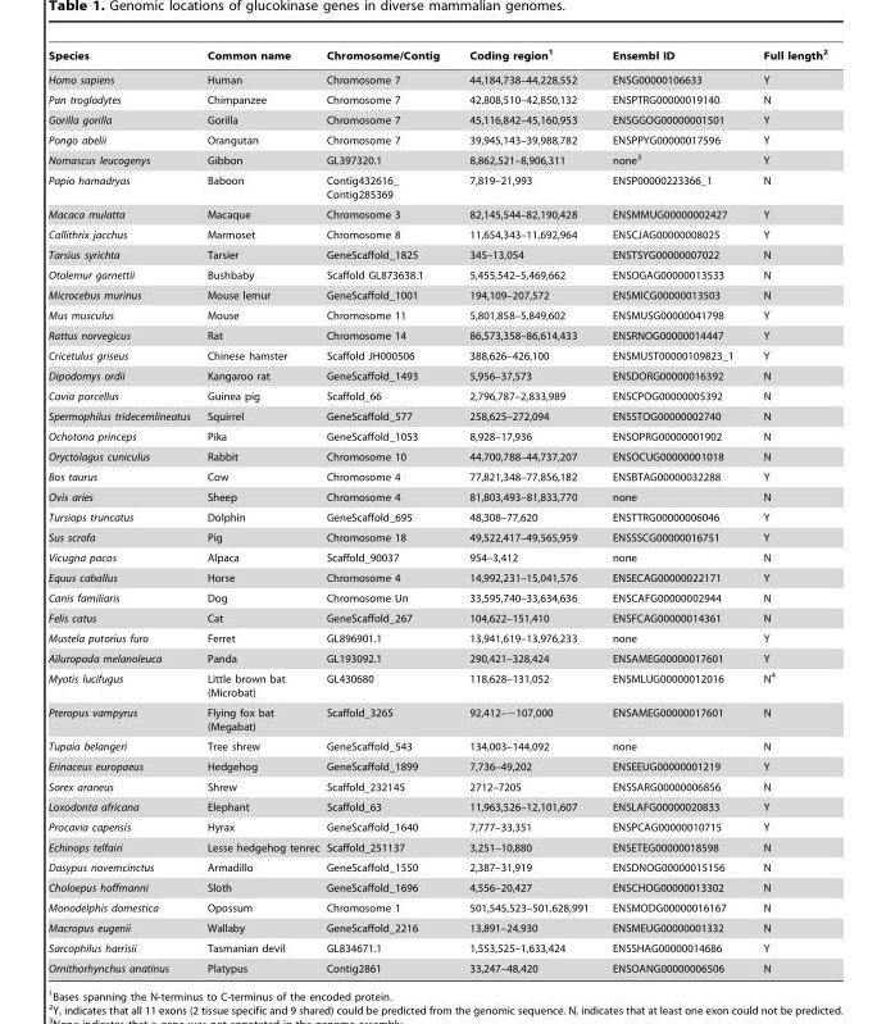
<table><thead><tr><td>Species</td><td>Common name</td><td>Chromosome/Contig</td><td>Coding region<sup>1</sup></td><td>Ensembl ID</td><td>Full length<sup>2</sup></td></tr></thead><tbody><tr><td>Homo sapiens</td><td>Human</td><td>Chromosome 7</td><td>44,184,738–44,228,552</td><td>ENSG00000106633</td><td>Y</td></tr><tr><td>Pan troglodytes</td><td>Chimpanzee</td><td>Chromosome 7</td><td>42,808,510–42,850,132</td><td>ENSPTRG00000019140</td><td>N</td></tr><tr><td>Gorilla gorilla</td><td>Gorilla</td><td>Chromosome 7</td><td>45,116,842–45,160,953</td><td>ENSGGOG00000001501</td><td>Y</td></tr><tr><td>Pongo abelii</td><td>Orangutan</td><td>Chromosome 7</td><td>39,945,143–39,988,782</td><td>ENSPPYG00000017596</td><td>Y</td></tr><tr><td>Nomascus leucogenys</td><td>Gibbon</td><td>GL397320.1</td><td>8,862,521–8,906,311</td><td>none<sup>3</sup></td><td>Y</td></tr><tr><td>Papio hamadryas</td><td>Baboon</td><td>Contig432616_ Contig285369</td><td>7,819–21,993</td><td>ENSP00000223366_1</td><td>N</td></tr><tr><td>Macaca mulatta</td><td>Macaque</td><td>Chromosome 3</td><td>82,145,544–82,190,428</td><td>ENSMMUG00000002427</td><td>Y</td></tr><tr><td>Callithrix jacchus</td><td>Marmoset</td><td>Chromosome 8</td><td>11,654,343–11,692,964</td><td>ENSCJAG00000008025</td><td>Y</td></tr><tr><td>Tarsius syrichta</td><td>Tarsier</td><td>GeneScaffold_1825</td><td>345–13,054</td><td>ENSTSYG00000007022</td><td>N</td></tr><tr><td>Otolemur garnettii</td><td>Bushbaby</td><td>Scaffold GL873638.1</td><td>5,455,542–5,469,662</td><td>ENSOGAG00000013533</td><td>N</td></tr><tr><td>Microcebus murinus</td><td>Mouse lemur</td><td>GeneScaffold_1001</td><td>194,109–207,572</td><td>ENSMICG00000013503</td><td>N</td></tr><tr><td>Mus musculus</td><td>Mouse</td><td>Chromosome 11</td><td>5,801,858–5,849,602</td><td>ENSMUSG00000041798</td><td>Y</td></tr><tr><td>Rattus norvegicus</td><td>Rat</td><td>Chromosome 14</td><td>86,573,358–86,614,433</td><td>ENSRNOG00000014447</td><td>Y</td></tr><tr><td>Cricetulus griseus</td><td>Chinese hamster</td><td>Scaffold JH000506</td><td>388,626–426,100</td><td>ENSMUST00000109823_1</td><td>Y</td></tr><tr><td>Dipodomys ordii</td><td>Kangaroo rat</td><td>GeneScaffold_1493</td><td>5,956–37,573</td><td>ENSDORG00000016392</td><td>N</td></tr><tr><td>Cavia porcellus</td><td>Guinea pig</td><td>Scaffold_66</td><td>2,796,787–2,833,989</td><td>ENSCPOG00000005392</td><td>N</td></tr><tr><td>Spermophilus tridecemlineatus</td><td>Squirrel</td><td>GeneScaffold_577</td><td>258,625–272,094</td><td>ENSSTOG00000002740</td><td>N</td></tr><tr><td>Ochotona princeps</td><td>Pika</td><td>GeneScaffold_1053</td><td>8,928–17,936</td><td>ENSOPRG00000001902</td><td>N</td></tr><tr><td>Oryctolagus cuniculus</td><td>Rabbit</td><td>Chromosome 10</td><td>44,700,788–44,737,207</td><td>ENSOCUG00000001018</td><td>N</td></tr><tr><td>Bos taurus</td><td>Cow</td><td>Chromosome 4</td><td>77,821,348–77,856,182</td><td>ENSBTAG00000032288</td><td>Y</td></tr><tr><td>Ovis aries</td><td>Sheep</td><td>Chromosome 4</td><td>81,803,493–81,833,770</td><td>none</td><td>N</td></tr><tr><td>Tursiops truncatus</td><td>Dolphin</td><td>GeneScaffold_695</td><td>48,308–77,620</td><td>ENSTTRG00000006046</td><td>Y</td></tr><tr><td>Sus scrofa</td><td>Pig</td><td>Chromosome 18</td><td>49,522,417–49,565,959</td><td>ENSSSCG00000016751</td><td>Y</td></tr><tr><td>Vicugna pacos</td><td>Alpaca</td><td>Scaffold_90037</td><td>954–3,412</td><td>none</td><td>N</td></tr><tr><td>Equus caballus</td><td>Horse</td><td>Chromosome 4</td><td>14,992,231–15,041,576</td><td>ENSECAG00000022171</td><td>Y</td></tr><tr><td>Canis familiaris</td><td>Dog</td><td>Chromosome Un</td><td>33,595,740–33,634,636</td><td>ENSCAFG00000002944</td><td>N</td></tr><tr><td>Felis catus</td><td>Cat</td><td>GeneScaffold_267</td><td>104,622–151,410</td><td>ENSFCAG00000014361</td><td>N</td></tr><tr><td>Mustela putorius furo</td><td>Ferret</td><td>GL896901.1</td><td>13,941,619–13,976,233</td><td>none</td><td>Y</td></tr><tr><td>Ailuropoda melanoleuca</td><td>Panda</td><td>GL193092.1</td><td>290,421–328,424</td><td>ENSAMEG00000017601</td><td>Y</td></tr><tr><td>Myotis lucifugus</td><td>Little brown bat (Microbat)</td><td>GL430680</td><td>118,628–131,052</td><td>ENSMLUG00000012016</td><td>N<sup>4</sup></td></tr><tr><td>Pteropus vampyrus</td><td>Flying fox bat (Megabat)</td><td>Scaffold_3265</td><td>92,412–∼107,000</td><td>ENSAMEG00000017601</td><td>N</td></tr><tr><td>Tupaia belangeri</td><td>Tree shrew</td><td>GeneScaffold_543</td><td>134,003–144,092</td><td>none</td><td>N</td></tr><tr><td>Erinaceus europaeus</td><td>Hedgehog</td><td>GeneScaffold_1899</td><td>7,736–49,202</td><td>ENSEEUG00000001219</td><td>Y</td></tr><tr><td>Sorex araneus</td><td>Shrew</td><td>Scaffold_232145</td><td>2712–7205</td><td>ENSSARG00000006856</td><td>N</td></tr><tr><td>Loxodonta africana</td><td>Elephant</td><td>Scaffold_63</td><td>11,963,526–12,101,607</td><td>ENSLAFG00000020833</td><td>Y</td></tr><tr><td>Procavia capensis</td><td>Hyrax</td><td>GeneScaffold_1640</td><td>7,777–33,351</td><td>ENSPCAG00000010715</td><td>Y</td></tr><tr><td>Echinops telfairi</td><td>Lesse hedgehog tenrec</td><td>Scaffold_251137</td><td>3,251–10,880</td><td>ENSETEG00000018598</td><td>N</td></tr><tr><td>Dasypus novemcinctus</td><td>Armadillo</td><td>GeneScaffold_1550</td><td>2,387–31,919</td><td>ENSDNOG00000015156</td><td>N</td></tr><tr><td>Choloepus hoffmanni</td><td>Sloth</td><td>GeneScaffold_1696</td><td>4,556–20,427</td><td>ENSCHOG00000013302</td><td>N</td></tr><tr><td>Monodelphis domestica</td><td>Opossum</td><td>Chromosome 1</td><td>501,545,523–501,628,991</td><td>ENSMODG00000016167</td><td>N</td></tr><tr><td>Macropus eugenii</td><td>Wallaby</td><td>GeneScaffold_2216</td><td>13,891–24,930</td><td>ENSMEUG00000001332</td><td>N</td></tr><tr><td>Sarcophilus harrisii</td><td>Tasmanian devil</td><td>GL834671.1</td><td>1,553,525–1,633,424</td><td>ENSSHAG00000014686</td><td>Y</td></tr><tr><td>Ornithorhynchus anatinus</td><td>Platypus</td><td>Contig2861</td><td>33,247–48,420</td><td>ENSOANG00000006506</td><td>N</td></tr></tbody></table>